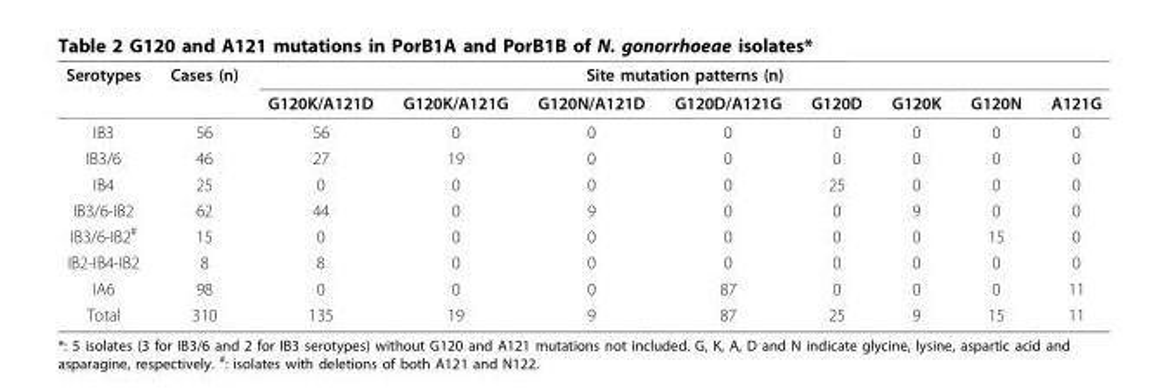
<table><thead><tr><td rowspan="2">Serotypes</td><td rowspan="2">Cases (n)</td><td colspan="8">Site mutation patterns (n)</td></tr><tr><td>G120K/A121D</td><td>G120K/A121G</td><td>G120N/A121D</td><td>G120D/A121G</td><td>G120D</td><td>G120K</td><td>G120N</td><td>A121G</td></tr></thead><tbody><tr><td>IB3</td><td>56</td><td>56</td><td>0</td><td>0</td><td>0</td><td>0</td><td>0</td><td>0</td><td>0</td></tr><tr><td>IB3/6</td><td>46</td><td>27</td><td>19</td><td>0</td><td>0</td><td>0</td><td>0</td><td>0</td><td>0</td></tr><tr><td>IB4</td><td>25</td><td>0</td><td>0</td><td>0</td><td>0</td><td>25</td><td>0</td><td>0</td><td>0</td></tr><tr><td>IB3/6-IB2</td><td>62</td><td>44</td><td>0</td><td>9</td><td>0</td><td>0</td><td>9</td><td>0</td><td>0</td></tr><tr><td>IB3/6-IB2<sup>#</sup></td><td>15</td><td>0</td><td>0</td><td>0</td><td>0</td><td>0</td><td>0</td><td>15</td><td>0</td></tr><tr><td>IB2-IB4-IB2</td><td>8</td><td>8</td><td>0</td><td>0</td><td>0</td><td>0</td><td>0</td><td>0</td><td>0</td></tr><tr><td>IA6</td><td>98</td><td>0</td><td>0</td><td>0</td><td>87</td><td>0</td><td>0</td><td>0</td><td>11</td></tr><tr><td>Total</td><td>310</td><td>135</td><td>19</td><td>9</td><td>87</td><td>25</td><td>9</td><td>15</td><td>11</td></tr></tbody></table>